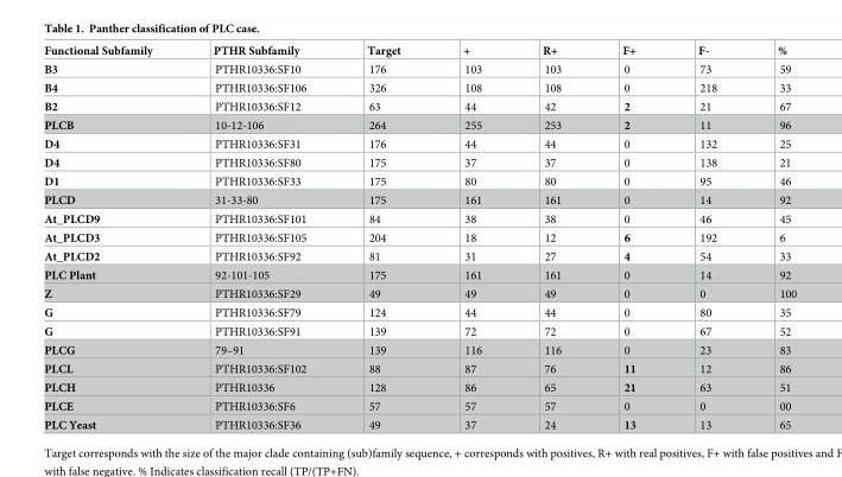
<table><thead><tr><td>Functional Subfamily</td><td>PTHR Subfamily</td><td>Target</td><td>+</td><td>R+</td><td>F+</td><td>F-</td><td>%</td></tr></thead><tbody><tr><td>B3</td><td>PTHR10336:SF10</td><td>176</td><td>103</td><td>103</td><td>0</td><td>73</td><td>59</td></tr><tr><td>B4</td><td>PTHR10336:SF106</td><td>326</td><td>108</td><td>108</td><td>0</td><td>218</td><td>33</td></tr><tr><td>B2</td><td>PTHR10336:SF12</td><td>63</td><td>44</td><td>42</td><td>2</td><td>21</td><td>67</td></tr><tr><td>PLCB</td><td>10-12-106</td><td>264</td><td>255</td><td>253</td><td>2</td><td>11</td><td>96</td></tr><tr><td>D4</td><td>PTHR10336:SF31</td><td>176</td><td>44</td><td>44</td><td>0</td><td>132</td><td>25</td></tr><tr><td>D4</td><td>PTHR10336:SF80</td><td>175</td><td>37</td><td>37</td><td>0</td><td>138</td><td>21</td></tr><tr><td>D1</td><td>PTHR10336:SF33</td><td>175</td><td>80</td><td>80</td><td>0</td><td>95</td><td>46</td></tr><tr><td>PLCD</td><td>31-33-80</td><td>175</td><td>161</td><td>161</td><td>0</td><td>14</td><td>92</td></tr><tr><td>At_PLCD9</td><td>PTHR10336:SF101</td><td>84</td><td>38</td><td>38</td><td>0</td><td>46</td><td>45</td></tr><tr><td>At_PLCD3</td><td>PTHR10336:SF105</td><td>204</td><td>18</td><td>12</td><td>6</td><td>192</td><td>6</td></tr><tr><td>At_PLCD2</td><td>PTHR10336:SF92</td><td>81</td><td>31</td><td>27</td><td>4</td><td>54</td><td>33</td></tr><tr><td>PLC Plant</td><td>92-101-105</td><td>175</td><td>161</td><td>161</td><td>0</td><td>14</td><td>92</td></tr><tr><td>Z</td><td>PTHR10336:SF29</td><td>49</td><td>49</td><td>49</td><td>0</td><td>0</td><td>100</td></tr><tr><td>G</td><td>PTHR10336:SF79</td><td>124</td><td>44</td><td>44</td><td>0</td><td>80</td><td>35</td></tr><tr><td>G</td><td>PTHR10336:SF91</td><td>139</td><td>72</td><td>72</td><td>0</td><td>67</td><td>52</td></tr><tr><td>PLCG</td><td>79–91</td><td>139</td><td>116</td><td>116</td><td>0</td><td>23</td><td>83</td></tr><tr><td>PLCL</td><td>PTHR10336:SF102</td><td>88</td><td>87</td><td>76</td><td>11</td><td>12</td><td>86</td></tr><tr><td>PLCH</td><td>PTHR10336</td><td>128</td><td>86</td><td>65</td><td>21</td><td>63</td><td>51</td></tr><tr><td>PLCE</td><td>PTHR10336:SF6</td><td>57</td><td>57</td><td>57</td><td>0</td><td>0</td><td>00</td></tr><tr><td>PLC Yeast</td><td>PTHR10336:SF36</td><td>49</td><td>37</td><td>24</td><td>13</td><td>13</td><td>65</td></tr></tbody></table>